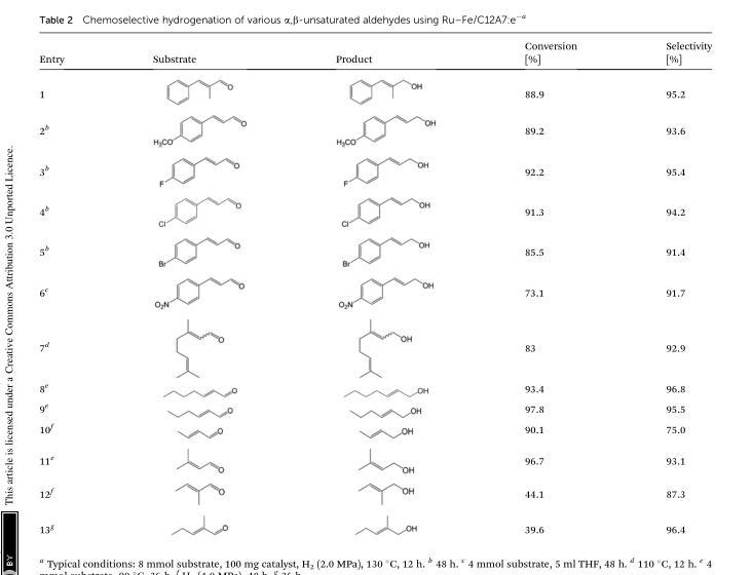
<table><thead><tr><td>Entry</td><td>Substrate</td><td>Product</td><td>Conversion [%]</td><td>Selectivity [%]</td></tr></thead><tbody><tr><td>1</td><td></td><td></td><td>88.9</td><td>95.2</td></tr><tr><td>2<sup>b</sup></td><td></td><td></td><td>89.2</td><td>93.6</td></tr><tr><td>3<sup>b</sup></td><td></td><td></td><td>92.2</td><td>95.4</td></tr><tr><td>4<sup>b</sup></td><td></td><td></td><td>91.3</td><td>94.2</td></tr><tr><td>5<sup>b</sup></td><td></td><td></td><td>85.5</td><td>91.4</td></tr><tr><td>6<sup>c</sup></td><td></td><td></td><td>73.1</td><td>91.7</td></tr><tr><td>7<sup>d</sup></td><td></td><td></td><td>83</td><td>92.9</td></tr><tr><td>8<sup>e</sup></td><td></td><td></td><td>93.4</td><td>96.8</td></tr><tr><td>9<sup>e</sup></td><td></td><td></td><td>97.8</td><td>95.5</td></tr><tr><td>10<sup>f</sup></td><td></td><td></td><td>90.1</td><td>75.0</td></tr><tr><td>11<sup>e</sup></td><td></td><td></td><td>96.7</td><td>93.1</td></tr><tr><td>12<sup>f</sup></td><td></td><td></td><td>44.1</td><td>87.3</td></tr><tr><td>13<sup>g</sup></td><td></td><td></td><td>39.6</td><td>96.4</td></tr></tbody></table>